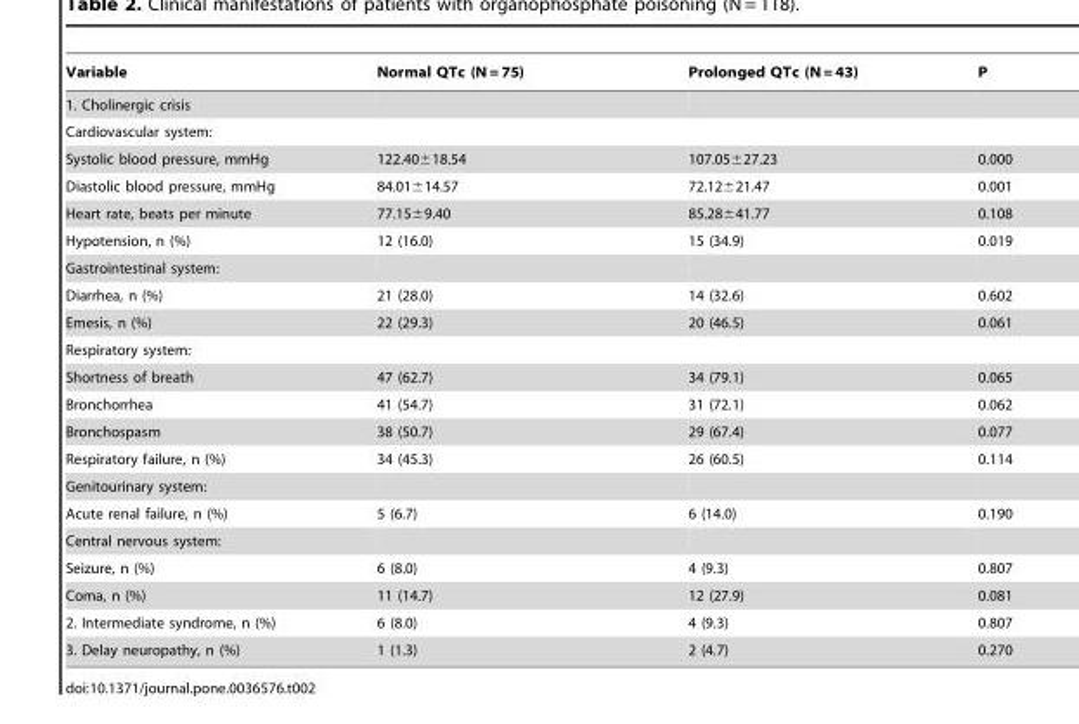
<table><thead><tr><td>Variable</td><td>Normal QTc (N = 75)</td><td>Prolonged QTc (N = 43)</td><td>P</td></tr></thead><tbody><tr><td colspan="4">1. Cholinergic crisis</td></tr><tr><td colspan="4">Cardiovascular system:</td></tr><tr><td>Systolic blood pressure, mmHg</td><td>122.40±18.54</td><td>107.05±27.23</td><td>0.000</td></tr><tr><td>Diastolic blood pressure, mmHg</td><td>84.01±14.57</td><td>72.12±21.47</td><td>0.001</td></tr><tr><td>Heart rate, beats per minute</td><td>77.15±9.40</td><td>85.28±41.77</td><td>0.108</td></tr><tr><td>Hypotension, n (%)</td><td>12 (16.0)</td><td>15 (34.9)</td><td>0.019</td></tr><tr><td colspan="4">Gastrointestinal system:</td></tr><tr><td>Diarrhea, n (%)</td><td>21 (28.0)</td><td>14 (32.6)</td><td>0.602</td></tr><tr><td>Emesis, n (%)</td><td>22 (29.3)</td><td>20 (46.5)</td><td>0.061</td></tr><tr><td colspan="4">Respiratory system:</td></tr><tr><td>Shortness of breath</td><td>47 (62.7)</td><td>34 (79.1)</td><td>0.065</td></tr><tr><td>Bronchorrhea</td><td>41 (54.7)</td><td>31 (72.1)</td><td>0.062</td></tr><tr><td>Bronchospasm</td><td>38 (50.7)</td><td>29 (67.4)</td><td>0.077</td></tr><tr><td>Respiratory failure, n (%)</td><td>34 (45.3)</td><td>26 (60.5)</td><td>0.114</td></tr><tr><td colspan="4">Genitourinary system:</td></tr><tr><td>Acute renal failure, n (%)</td><td>5 (6.7)</td><td>6 (14.0)</td><td>0.190</td></tr><tr><td colspan="4">Central nervous system:</td></tr><tr><td>Seizure, n (%)</td><td>6 (8.0)</td><td>4 (9.3)</td><td>0.807</td></tr><tr><td>Coma, n (%)</td><td>11 (14.7)</td><td>12 (27.9)</td><td>0.081</td></tr><tr><td>2. Intermediate syndrome, n (%)</td><td>6 (8.0)</td><td>4 (9.3)</td><td>0.807</td></tr><tr><td>3. Delay neuropathy, n (%)</td><td>1 (1.3)</td><td>2 (4.7)</td><td>0.270</td></tr></tbody></table>